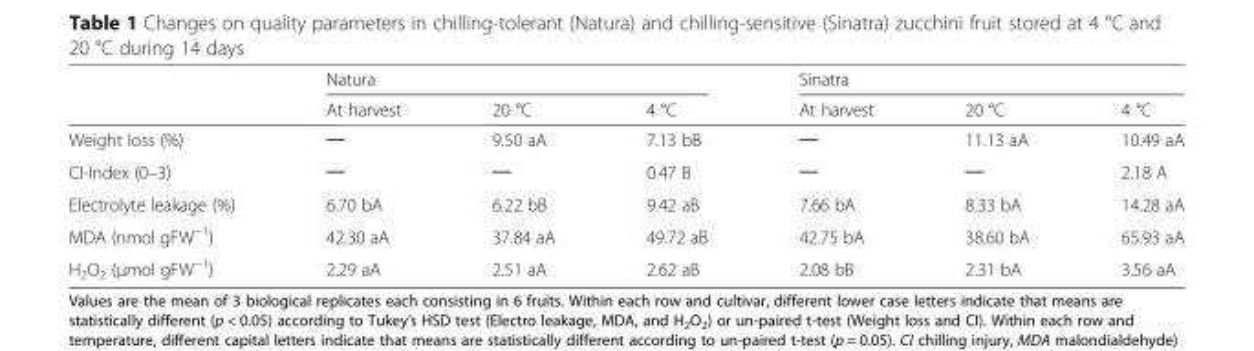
<table><thead><tr><td rowspan="2"></td><td colspan="3">Natura</td><td colspan="3">Sinatra</td></tr><tr><td>At harvest</td><td>20 °C</td><td>4 °C</td><td>At harvest</td><td>20 °C</td><td>4 °C</td></tr></thead><tbody><tr><td>Weight loss (%)</td><td>─</td><td>9.50 aA</td><td>7.13 bB</td><td>─</td><td>11.13 aA</td><td>10.49 aA</td></tr><tr><td>CI-Index (0–3)</td><td>─</td><td>─</td><td>0.47 B</td><td>─</td><td>─</td><td>2.18 A</td></tr><tr><td>Electrolyte leakage (%)</td><td>6.70 bA</td><td>6.22 bB</td><td>9.42 aB</td><td>7.66 bA</td><td>8.33 bA</td><td>14.28 aA</td></tr><tr><td>MDA (nmol gFW<sup>−1</sup>)</td><td>42.30 aA</td><td>37.84 aA</td><td>49.72 aB</td><td>42.75 bA</td><td>38.60 bA</td><td>65.93 aA</td></tr><tr><td>H<sub>2</sub>O<sub>2</sub> (μmol gFW<sup>−1</sup>)</td><td>2.29 aA</td><td>2.51 aA</td><td>2.62 aB</td><td>2.08 bB</td><td>2.31 bA</td><td>3.56 aA</td></tr></tbody></table>